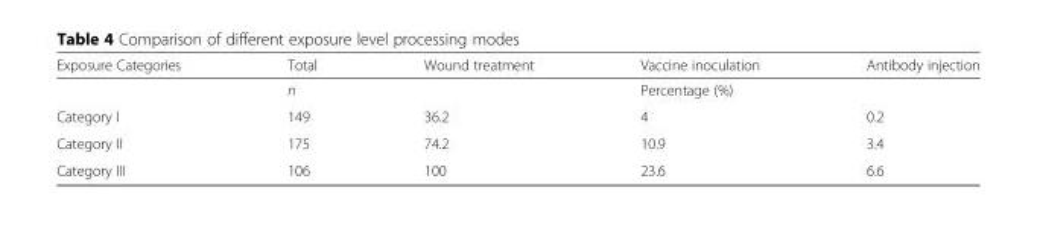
<table><thead><tr><td>Exposure Categories</td><td>Total</td><td>Wound treatment</td><td>Vaccine inoculation</td><td>Antibody injection</td></tr></thead><tbody><tr><td></td><td>n</td><td></td><td>Percentage (%)</td><td></td></tr><tr><td>Category I</td><td>149</td><td>36.2</td><td>4</td><td>0.2</td></tr><tr><td>Category II</td><td>175</td><td>74.2</td><td>10.9</td><td>3.4</td></tr><tr><td>Category III</td><td>106</td><td>100</td><td>23.6</td><td>6.6</td></tr></tbody></table>